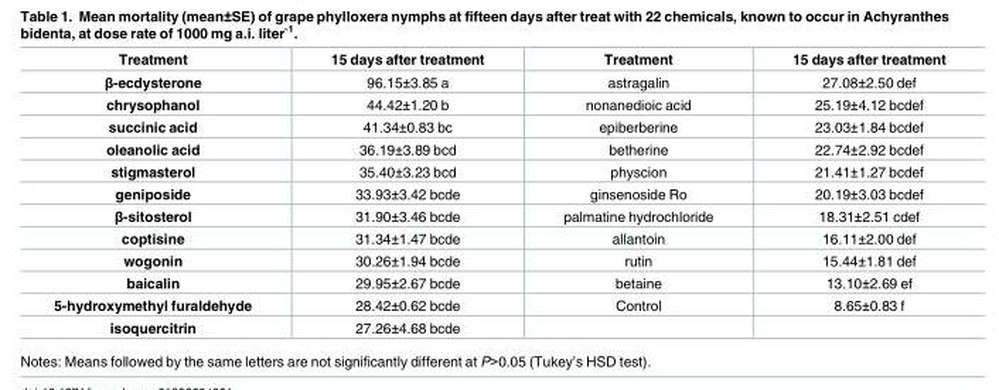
<table><thead><tr><td>Treatment</td><td>15 days after treatment</td><td>Treatment</td><td>15 days after treatment</td></tr></thead><tbody><tr><td>β-ecdysterone</td><td>96.15±3.85 a</td><td>astragalin</td><td>27.08±2.50 def</td></tr><tr><td>chrysophanol</td><td>44.42±1.20 b</td><td>nonanedioic acid</td><td>25.19±4.12 bcdef</td></tr><tr><td>succinic acid</td><td>41.34±0.83 bc</td><td>epiberberine</td><td>23.03±1.84 bcdef</td></tr><tr><td>oleanolic acid</td><td>36.19±3.89 bcd</td><td>betherine</td><td>22.74±2.92 bcdef</td></tr><tr><td>stigmasterol</td><td>35.40±3.23 bcd</td><td>physcion</td><td>21.41±1.27 bcdef</td></tr><tr><td>geniposide</td><td>33.93±3.42 bcde</td><td>ginsenoside Ro</td><td>20.19±3.03 bcdef</td></tr><tr><td>β-sitosterol</td><td>31.90±3.46 bcde</td><td>palmatine hydrochloride</td><td>18.31±2.51 cdef</td></tr><tr><td>coptisine</td><td>31.34±1.47 bcde</td><td>allantoin</td><td>16.11±2.00 def</td></tr><tr><td>wogonin</td><td>30.26±1.94 bcde</td><td>rutin</td><td>15.44±1.81 def</td></tr><tr><td>baicalin</td><td>29.95±2.67 bcde</td><td>betaine</td><td>13.10±2.69 ef</td></tr><tr><td>5-hydroxymethyl furaldehyde</td><td>28.42±0.62 bcde</td><td>Control</td><td>8.65±0.83 f</td></tr><tr><td>isoquercitrin</td><td>27.26±4.68 bcde</td><td></td><td></td></tr></tbody></table>